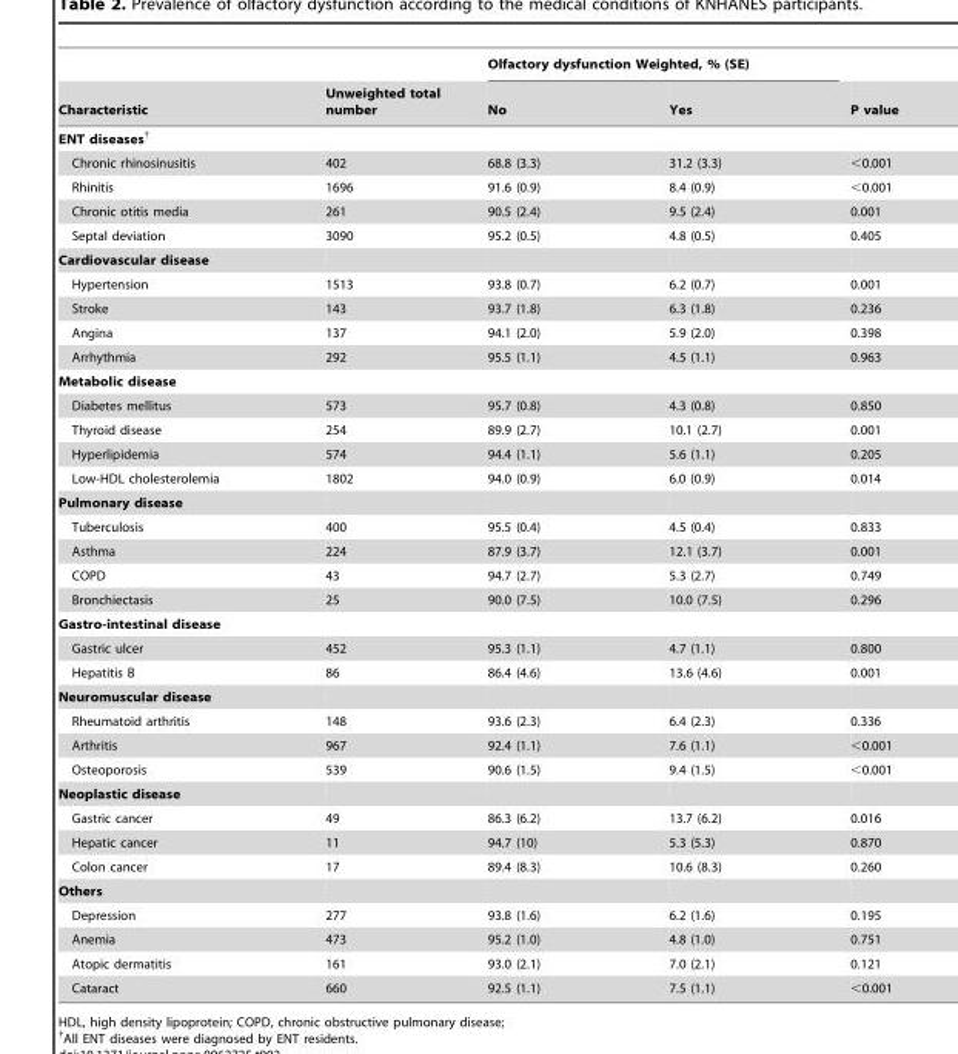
<table><thead><tr><td rowspan="2">Characteristic</td><td rowspan="2">Unweighted total number</td><td colspan="2">Olfactory dysfunction Weighted, % (SE)</td><td rowspan="2">P value</td></tr><tr><td>No</td><td>Yes</td></tr></thead><tbody><tr><td colspan="5">ENT diseases†</td></tr><tr><td>Chronic rhinosinusitis</td><td>402</td><td>68.8 (3.3)</td><td>31.2 (3.3)</td><td>&lt;0.001</td></tr><tr><td>Rhinitis</td><td>1696</td><td>91.6 (0.9)</td><td>8.4 (0.9)</td><td>&lt;0.001</td></tr><tr><td>Chronic otitis media</td><td>261</td><td>90.5 (2.4)</td><td>9.5 (2.4)</td><td>0.001</td></tr><tr><td>Septal deviation</td><td>3090</td><td>95.2 (0.5)</td><td>4.8 (0.5)</td><td>0.405</td></tr><tr><td colspan="5">Cardiovascular disease</td></tr><tr><td>Hypertension</td><td>1513</td><td>93.8 (0.7)</td><td>6.2 (0.7)</td><td>0.001</td></tr><tr><td>Stroke</td><td>143</td><td>93.7 (1.8)</td><td>6.3 (1.8)</td><td>0.236</td></tr><tr><td>Angina</td><td>137</td><td>94.1 (2.0)</td><td>5.9 (2.0)</td><td>0.398</td></tr><tr><td>Arrhythmia</td><td>292</td><td>95.5 (1.1)</td><td>4.5 (1.1)</td><td>0.963</td></tr><tr><td colspan="5">Metabolic disease</td></tr><tr><td>Diabetes mellitus</td><td>573</td><td>95.7 (0.8)</td><td>4.3 (0.8)</td><td>0.850</td></tr><tr><td>Thyroid disease</td><td>254</td><td>89.9 (2.7)</td><td>10.1 (2.7)</td><td>0.001</td></tr><tr><td>Hyperlipidemia</td><td>574</td><td>94.4 (1.1)</td><td>5.6 (1.1)</td><td>0.205</td></tr><tr><td>Low-HDL cholesterolemia</td><td>1802</td><td>94.0 (0.9)</td><td>6.0 (0.9)</td><td>0.014</td></tr><tr><td colspan="5">Pulmonary disease</td></tr><tr><td>Tuberculosis</td><td>400</td><td>95.5 (0.4)</td><td>4.5 (0.4)</td><td>0.833</td></tr><tr><td>Asthma</td><td>224</td><td>87.9 (3.7)</td><td>12.1 (3.7)</td><td>0.001</td></tr><tr><td>COPD</td><td>43</td><td>94.7 (2.7)</td><td>5.3 (2.7)</td><td>0.749</td></tr><tr><td>Bronchiectasis</td><td>25</td><td>90.0 (7.5)</td><td>10.0 (7.5)</td><td>0.296</td></tr><tr><td colspan="5">Gastro-intestinal disease</td></tr><tr><td>Gastric ulcer</td><td>452</td><td>95.3 (1.1)</td><td>4.7 (1.1)</td><td>0.800</td></tr><tr><td>Hepatitis B</td><td>86</td><td>86.4 (4.6)</td><td>13.6 (4.6)</td><td>0.001</td></tr><tr><td colspan="5">Neuromuscular disease</td></tr><tr><td>Rheumatoid arthritis</td><td>148</td><td>93.6 (2.3)</td><td>6.4 (2.3)</td><td>0.336</td></tr><tr><td>Arthritis</td><td>967</td><td>92.4 (1.1)</td><td>7.6 (1.1)</td><td>&lt;0.001</td></tr><tr><td>Osteoporosis</td><td>539</td><td>90.6 (1.5)</td><td>9.4 (1.5)</td><td>&lt;0.001</td></tr><tr><td colspan="5">Neoplastic disease</td></tr><tr><td>Gastric cancer</td><td>49</td><td>86.3 (6.2)</td><td>13.7 (6.2)</td><td>0.016</td></tr><tr><td>Hepatic cancer</td><td>11</td><td>94.7 (10)</td><td>5.3 (5.3)</td><td>0.870</td></tr><tr><td>Colon cancer</td><td>17</td><td>89.4 (8.3)</td><td>10.6 (8.3)</td><td>0.260</td></tr><tr><td colspan="5">Others</td></tr><tr><td>Depression</td><td>277</td><td>93.8 (1.6)</td><td>6.2 (1.6)</td><td>0.195</td></tr><tr><td>Anemia</td><td>473</td><td>95.2 (1.0)</td><td>4.8 (1.0)</td><td>0.751</td></tr><tr><td>Atopic dermatitis</td><td>161</td><td>93.0 (2.1)</td><td>7.0 (2.1)</td><td>0.121</td></tr><tr><td>Cataract</td><td>660</td><td>92.5 (1.1)</td><td>7.5 (1.1)</td><td>&lt;0.001</td></tr></tbody></table>